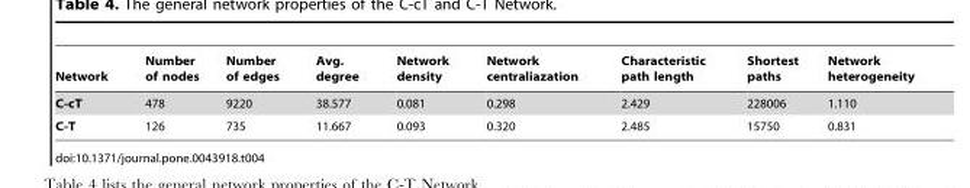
<table><thead><tr><td>Network</td><td>Number of nodes</td><td>Number of edges</td><td>Avg. degree</td><td>Network density</td><td>Network centraliazation</td><td>Characteristic path length</td><td>Shortest paths</td><td>Network heterogeneity</td></tr></thead><tbody><tr><td>C-cT</td><td>478</td><td>9220</td><td>38.577</td><td>0.081</td><td>0.298</td><td>2.429</td><td>228006</td><td>1.110</td></tr><tr><td>C-T</td><td>126</td><td>735</td><td>11.667</td><td>0.093</td><td>0.320</td><td>2.485</td><td>15750</td><td>0.831</td></tr></tbody></table>